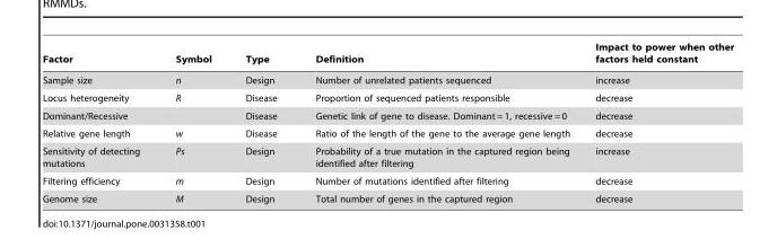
<table><thead><tr><td>Factor</td><td>Symbol</td><td>Type</td><td>Definition</td><td>Impact to power when other factors held constant</td></tr></thead><tbody><tr><td>Sample size</td><td>n</td><td>Design</td><td>Number of unrelated patients sequenced</td><td>increase</td></tr><tr><td>Locus heterogeneity</td><td>R</td><td>Disease</td><td>Proportion of sequenced patients responsible</td><td>decrease</td></tr><tr><td>Dominant/Recessive</td><td></td><td>Disease</td><td>Genetic link of gene to disease. Dominant = 1, recessive = 0</td><td>decrease</td></tr><tr><td>Relative gene length</td><td>w</td><td>Disease</td><td>Ratio of the length of the gene to the average gene length</td><td>decrease</td></tr><tr><td>Sensitivity of detecting mutations</td><td>Ps</td><td>Design</td><td>Probability of a true mutation in the captured region being identified after filtering</td><td>increase</td></tr><tr><td>Filtering efficiency</td><td>m</td><td>Design</td><td>Number of mutations identified after filtering</td><td>decrease</td></tr><tr><td>Genome size</td><td>M</td><td>Design</td><td>Total number of genes in the captured region</td><td>decrease</td></tr></tbody></table>